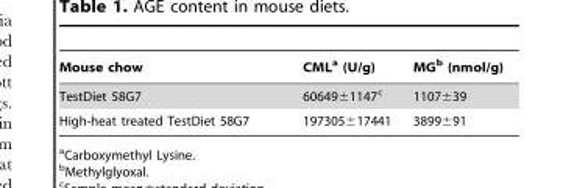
<table><thead><tr><td>Mouse chow</td><td>CML<sup>a</sup> (U/g)</td><td>MG<sup>b</sup> (nmol/g)</td></tr></thead><tbody><tr><td>TestDiet 58G7</td><td>60649±1147<sup>c</sup></td><td>1107±39</td></tr><tr><td>High-heat treated TestDiet 58G7</td><td>197305±17441</td><td>3899±91</td></tr></tbody></table>